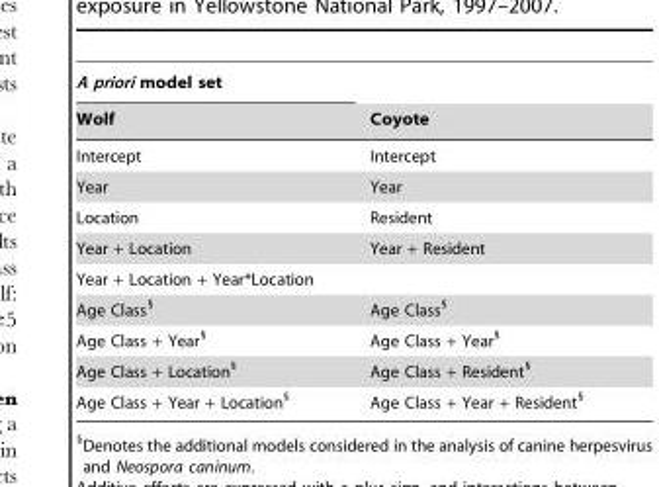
<table><thead><tr><td rowspan="2">A priori model set Wolf</td><td rowspan="2">Coyote</td></tr><tr></tr></thead><tbody><tr><td>Intercept</td><td>Intercept</td></tr><tr><td>Year</td><td>Year</td></tr><tr><td>Location</td><td>Resident</td></tr><tr><td>Year + Location</td><td>Year + Resident</td></tr><tr><td colspan="2">Year + Location + Year*Location</td></tr><tr><td>Age Class§</td><td>Age Class§</td></tr><tr><td>Age Class + Year§</td><td>Age Class + Year§</td></tr><tr><td>Age Class + Location§</td><td>Age Class + Resident§</td></tr><tr><td>Age Class + Year + Location§</td><td>Age Class + Year + Resident§</td></tr></tbody></table>